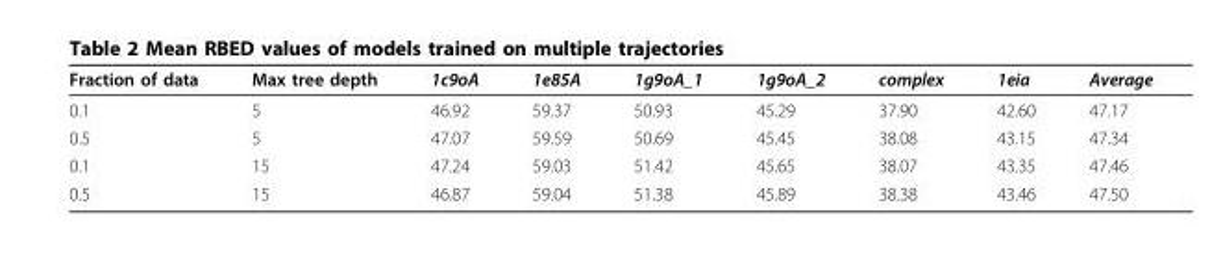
<table><thead><tr><td>Fraction of data</td><td>Max tree depth</td><td>1c9oA</td><td>1e85A</td><td>1g9oA_1</td><td>1g9oA_2</td><td>complex</td><td>1eia</td><td>Average</td></tr></thead><tbody><tr><td>0.1</td><td>5</td><td>46.92</td><td>59.37</td><td>50.93</td><td>45.29</td><td>37.90</td><td>42.60</td><td>47.17</td></tr><tr><td>0.5</td><td>5</td><td>47.07</td><td>59.59</td><td>50.69</td><td>45.45</td><td>38.08</td><td>43.15</td><td>47.34</td></tr><tr><td>0.1</td><td>15</td><td>47.24</td><td>59.03</td><td>51.42</td><td>45.65</td><td>38.07</td><td>43.35</td><td>47.46</td></tr><tr><td>0.5</td><td>15</td><td>46.87</td><td>59.04</td><td>51.38</td><td>45.89</td><td>38.38</td><td>43.46</td><td>47.50</td></tr></tbody></table>